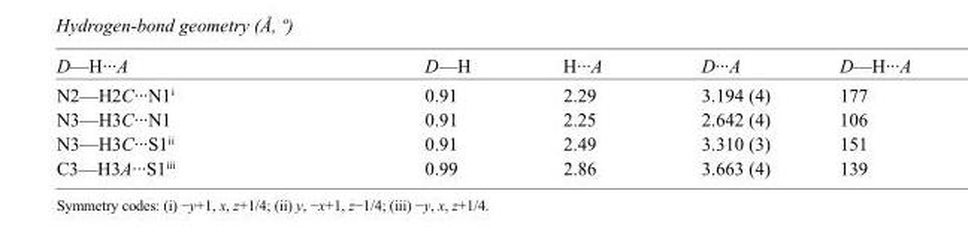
<table><tbody><tr><td>D—H···A</td><td>D—H</td><td>H···A</td><td>D···A</td><td>D—H···A</td></tr><tr><td>N2—H2C···N1<sup>i</sup></td><td>0.91</td><td>2.29</td><td>3.194 (4)</td><td>177</td></tr><tr><td>N3—H3C···N1</td><td>0.91</td><td>2.25</td><td>2.642 (4)</td><td>106</td></tr><tr><td>N3—H3C···S1<sup>ii</sup></td><td>0.91</td><td>2.49</td><td>3.310 (3)</td><td>151</td></tr><tr><td>C3—H3A···S1<sup>iii</sup></td><td>0.99</td><td>2.86</td><td>3.663 (4)</td><td>139</td></tr></tbody></table>